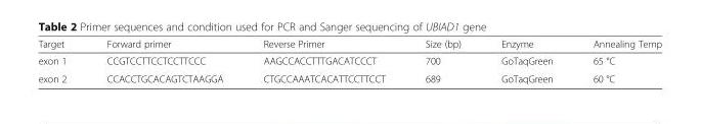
<table><thead><tr><td>Target</td><td>Forward primer</td><td>Reverse Primer</td><td>Size (bp)</td><td>Enzyme</td><td>Annealing Temp</td></tr></thead><tbody><tr><td>exon 1</td><td>CCGTCCTTCCTCCTTCCC</td><td>AAGCCACCTTTGACATCCCT</td><td>700</td><td>GoTaqGreen</td><td>65 °C</td></tr><tr><td>exon 2</td><td>CCACCTGCACAGTCTAAGGA</td><td>CTGCCAAATCACATTCCTTCCT</td><td>689</td><td>GoTaqGreen</td><td>60 °C</td></tr></tbody></table>